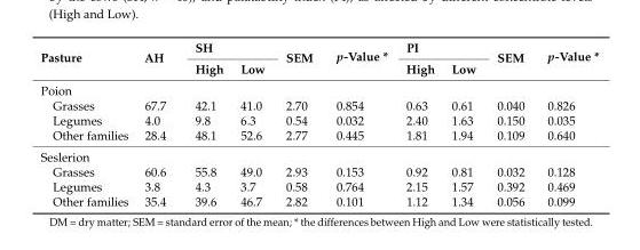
<table><thead><tr><td rowspan="2">Pasture</td><td rowspan="2">AH</td><td colspan="2">SH</td><td rowspan="2">SEM</td><td rowspan="2">p-Value *</td><td colspan="2">PI</td><td rowspan="2">SEM</td><td rowspan="2">p-Value *</td></tr><tr><td>High</td><td>Low</td><td>High</td><td>Low</td></tr></thead><tbody><tr><td colspan="10">Poion</td></tr><tr><td>Grasses</td><td>67.7</td><td>42.1</td><td>41.0</td><td>2.70</td><td>0.854</td><td>0.63</td><td>0.61</td><td>0.040</td><td>0.826</td></tr><tr><td>Legumes</td><td>4.0</td><td>9.8</td><td>6.3</td><td>0.54</td><td>0.032</td><td>2.40</td><td>1.63</td><td>0.150</td><td>0.035</td></tr><tr><td>Other families</td><td>28.4</td><td>48.1</td><td>52.6</td><td>2.77</td><td>0.445</td><td>1.81</td><td>1.94</td><td>0.109</td><td>0.640</td></tr><tr><td colspan="10">Seslerion</td></tr><tr><td>Grasses</td><td>60.6</td><td>55.8</td><td>49.0</td><td>2.93</td><td>0.153</td><td>0.92</td><td>0.81</td><td>0.032</td><td>0.128</td></tr><tr><td>Legumes</td><td>3.8</td><td>4.3</td><td>3.7</td><td>0.58</td><td>0.764</td><td>2.15</td><td>1.57</td><td>0.392</td><td>0.469</td></tr><tr><td>Other families</td><td>35.4</td><td>39.6</td><td>46.7</td><td>2.82</td><td>0.101</td><td>1.12</td><td>1.34</td><td>0.056</td><td>0.099</td></tr></tbody></table>